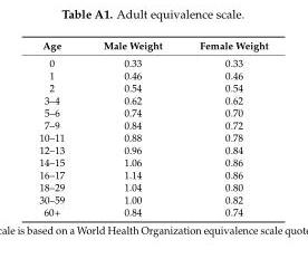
<table><thead><tr><td>Age</td><td>Male Weight</td><td>Female Weight</td></tr></thead><tbody><tr><td>0</td><td>0.33</td><td>0.33</td></tr><tr><td>1</td><td>0.46</td><td>0.46</td></tr><tr><td>2</td><td>0.54</td><td>0.54</td></tr><tr><td>3–4</td><td>0.62</td><td>0.62</td></tr><tr><td>5–6</td><td>0.74</td><td>0.70</td></tr><tr><td>7–9</td><td>0.84</td><td>0.72</td></tr><tr><td>10–11</td><td>0.88</td><td>0.78</td></tr><tr><td>12–13</td><td>0.96</td><td>0.84</td></tr><tr><td>14–15</td><td>1.06</td><td>0.86</td></tr><tr><td>16–17</td><td>1.14</td><td>0.86</td></tr><tr><td>18–29</td><td>1.04</td><td>0.80</td></tr><tr><td>30–59</td><td>1.00</td><td>0.82</td></tr><tr><td>60+</td><td>0.84</td><td>0.74</td></tr></tbody></table>